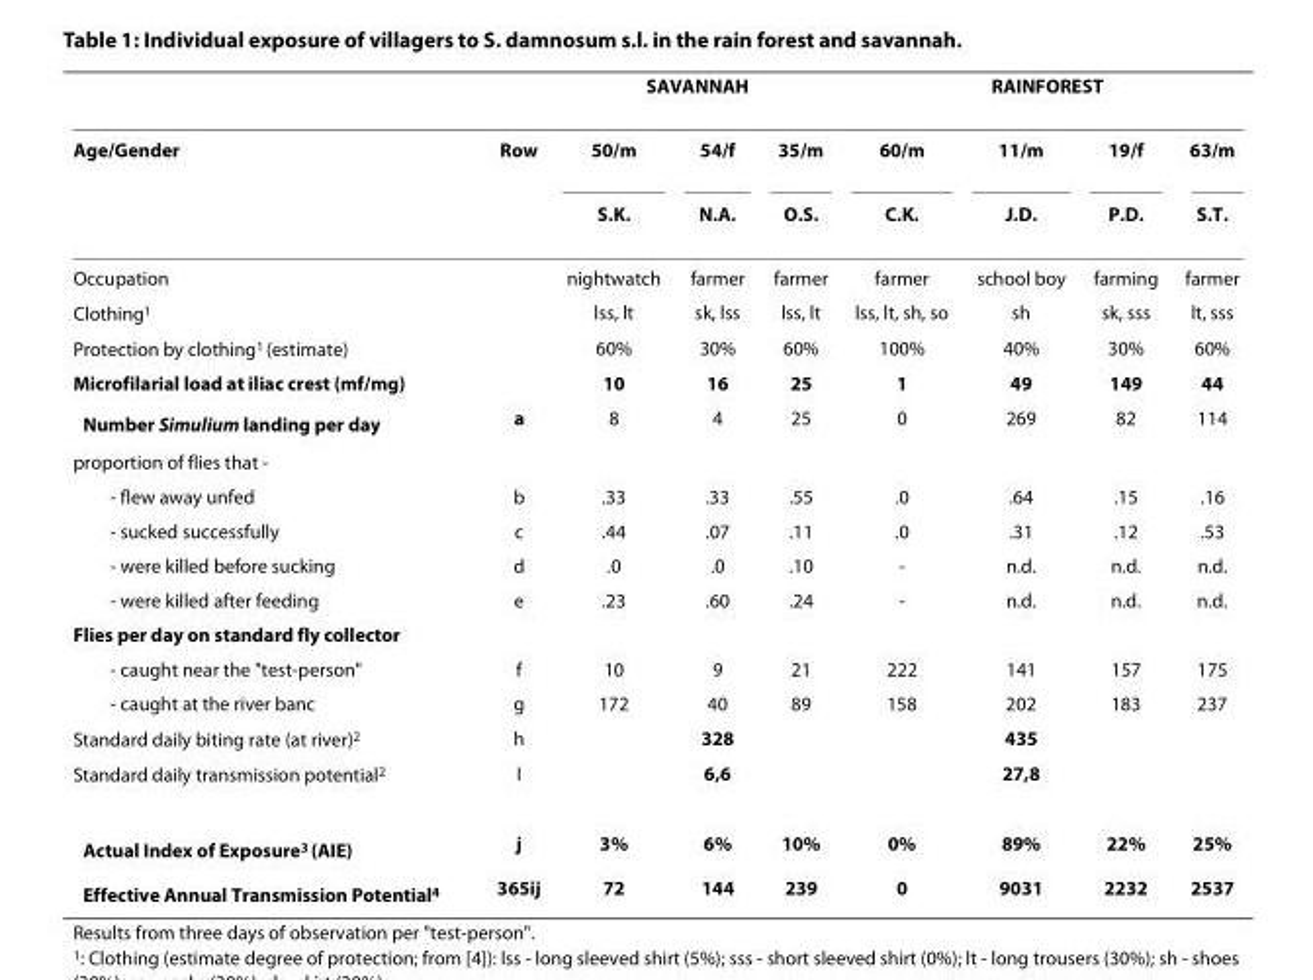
<table><thead><tr><td rowspan="2">Age/Gender</td><td rowspan="2">Row</td><td colspan="3">SAVANNAH</td><td colspan="4">RAINFOREST</td></tr><tr><td>50/m</td><td>54/f</td><td>35/m</td><td>60/m</td><td>11/m</td><td>19/f</td><td>63/m</td></tr></thead><tbody><tr><td></td><td></td><td>S.K.</td><td>N.A.</td><td>O.S.</td><td>C.K.</td><td>J.D.</td><td>P.D.</td><td>S.T.</td></tr><tr><td>Occupation</td><td></td><td>nightwatch</td><td>farmer</td><td>farmer</td><td>farmer</td><td>school boy</td><td>farming</td><td>farmer</td></tr><tr><td>Clothing<sup>1</sup></td><td></td><td>lss, lt</td><td>sk, lss</td><td>lss, lt</td><td>lss, lt, sh, so</td><td>sh</td><td>sk, sss</td><td>lt, sss</td></tr><tr><td>Protection by clothing<sup>1</sup> (estimate)</td><td></td><td>60%</td><td>30%</td><td>60%</td><td>100%</td><td>40%</td><td>30%</td><td>60%</td></tr><tr><td>Microfilarial load at iliac crest (mf/mg)</td><td></td><td>10</td><td>16</td><td>25</td><td>1</td><td>49</td><td>149</td><td>44</td></tr><tr><td>Number Simulium landing per day</td><td>a</td><td>8</td><td>4</td><td>25</td><td>0</td><td>269</td><td>82</td><td>114</td></tr><tr><td colspan="9">proportion of flies that -</td></tr><tr><td>- flew away unfed</td><td>b</td><td>.33</td><td>.33</td><td>.55</td><td>.0</td><td>.64</td><td>.15</td><td>.16</td></tr><tr><td>- sucked successfully</td><td>c</td><td>.44</td><td>.07</td><td>.11</td><td>.0</td><td>.31</td><td>.12</td><td>.53</td></tr><tr><td>- were killed before sucking</td><td>d</td><td>.0</td><td>.0</td><td>.10</td><td>-</td><td>n.d.</td><td>n.d.</td><td>n.d.</td></tr><tr><td>- were killed after feeding</td><td>e</td><td>.23</td><td>.60</td><td>.24</td><td>-</td><td>n.d.</td><td>n.d.</td><td>n.d.</td></tr><tr><td colspan="9">Flies per day on standard fly collector</td></tr><tr><td>- caught near the &quot;test-person&quot;</td><td>f</td><td>10</td><td>9</td><td>21</td><td>222</td><td>141</td><td>157</td><td>175</td></tr><tr><td>- caught at the river banc</td><td>g</td><td>172</td><td>40</td><td>89</td><td>158</td><td>202</td><td>183</td><td>237</td></tr><tr><td>Standard daily biting rate (at river)<sup>2</sup></td><td>h</td><td colspan="3">328</td><td colspan="4">435</td></tr><tr><td>Standard daily transmission potential<sup>2</sup></td><td>I</td><td colspan="3">6,6</td><td colspan="4">27,8</td></tr><tr><td>Actual Index of Exposure<sup>3</sup> (AIE)</td><td>j</td><td>3%</td><td>6%</td><td>10%</td><td>0%</td><td>89%</td><td>22%</td><td>25%</td></tr><tr><td>Effective Annual Transmission Potential<sup>4</sup></td><td>365ij</td><td>72</td><td>144</td><td>239</td><td>0</td><td>9031</td><td>2232</td><td>2537</td></tr></tbody></table>